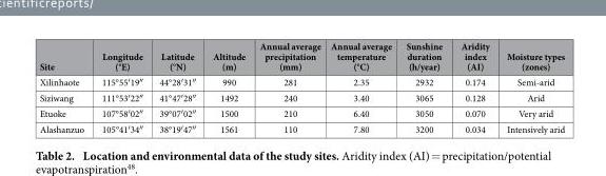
<table><thead><tr><td>Site</td><td>Longitude (°E)</td><td>Latitude (°N)</td><td>Altitude (m)</td><td>Annual average precipitation (mm)</td><td>Annual average temperature (°C)</td><td>Sunshine duration (h/year)</td><td>Aridity index (AI)</td><td>Moisture types (zones)</td></tr></thead><tbody><tr><td>Xilinhaote</td><td>115°55′ 19″</td><td>44°28′ 31″</td><td>990</td><td>281</td><td>2.35</td><td>2932</td><td>0.174</td><td>Semi-arid</td></tr><tr><td>Siziwang</td><td>111°53′ 22″</td><td>41°47′ 28″</td><td>1492</td><td>240</td><td>3.40</td><td>3065</td><td>0.128</td><td>Arid</td></tr><tr><td>Etuoke</td><td>107°58′ 02″</td><td>39°07′ 02″</td><td>1500</td><td>210</td><td>6.40</td><td>3050</td><td>0.070</td><td>Very arid</td></tr><tr><td>Alashanzuo</td><td>105°41′ 34″</td><td>38°19′ 47″</td><td>1561</td><td>110</td><td>7.80</td><td>3200</td><td>0.034</td><td>Intensively arid</td></tr></tbody></table>